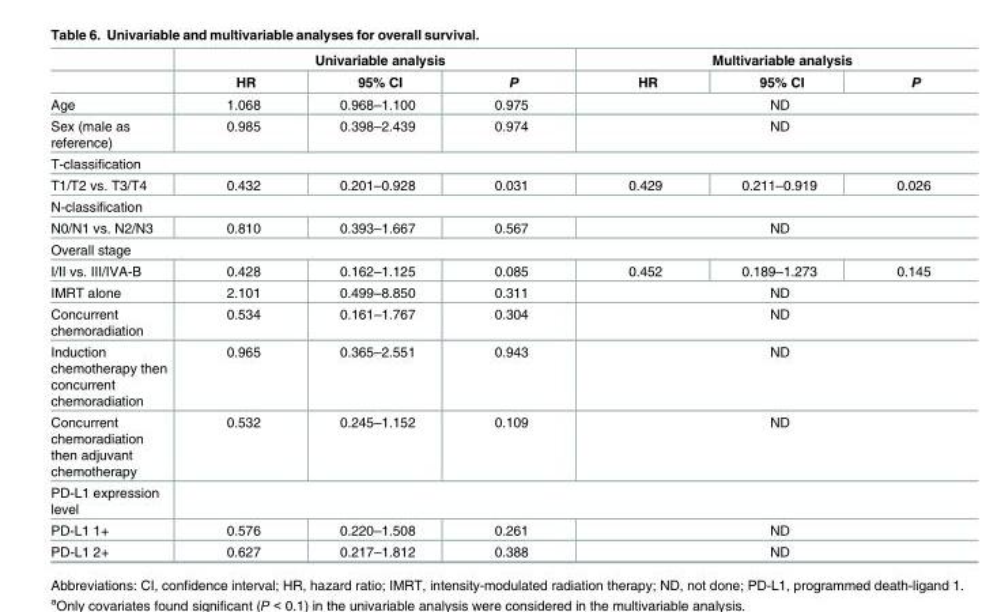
<table><thead><tr><td rowspan="2"></td><td colspan="3">Univariable analysis</td><td colspan="3">Multivariable analysis</td></tr><tr><td>HR</td><td>95% CI</td><td>P</td><td>HR</td><td>95% CI</td><td>P</td></tr></thead><tbody><tr><td>Age</td><td>1.068</td><td>0.968–1.100</td><td>0.975</td><td colspan="3">ND</td></tr><tr><td>Sex (male as reference)</td><td>0.985</td><td>0.398–2.439</td><td>0.974</td><td colspan="3">ND</td></tr><tr><td colspan="7">T-classification</td></tr><tr><td>T1/T2 vs. T3/T4</td><td>0.432</td><td>0.201–0.928</td><td>0.031</td><td>0.429</td><td>0.211–0.919</td><td>0.026</td></tr><tr><td colspan="7">N-classification</td></tr><tr><td>N0/N1 vs. N2/N3</td><td>0.810</td><td>0.393–1.667</td><td>0.567</td><td colspan="3">ND</td></tr><tr><td colspan="7">Overall stage</td></tr><tr><td>I/II vs. III/IVA-B</td><td>0.428</td><td>0.162–1.125</td><td>0.085</td><td>0.452</td><td>0.189–1.273</td><td>0.145</td></tr><tr><td>IMRT alone</td><td>2.101</td><td>0.499–8.850</td><td>0.311</td><td colspan="3">ND</td></tr><tr><td>Concurrent chemoradiation</td><td>0.534</td><td>0.161–1.767</td><td>0.304</td><td colspan="3">ND</td></tr><tr><td>Induction chemotherapy then concurrent chemoradiation</td><td>0.965</td><td>0.365–2.551</td><td>0.943</td><td colspan="3">ND</td></tr><tr><td>Concurrent chemoradiation then adjuvant chemotherapy</td><td>0.532</td><td>0.245–1.152</td><td>0.109</td><td colspan="3">ND</td></tr><tr><td colspan="7">PD-L1 expression level</td></tr><tr><td>PD-L1 1+</td><td>0.576</td><td>0.220–1.508</td><td>0.261</td><td colspan="3">ND</td></tr><tr><td>PD-L1 2+</td><td>0.627</td><td>0.217–1.812</td><td>0.388</td><td colspan="3">ND</td></tr></tbody></table>